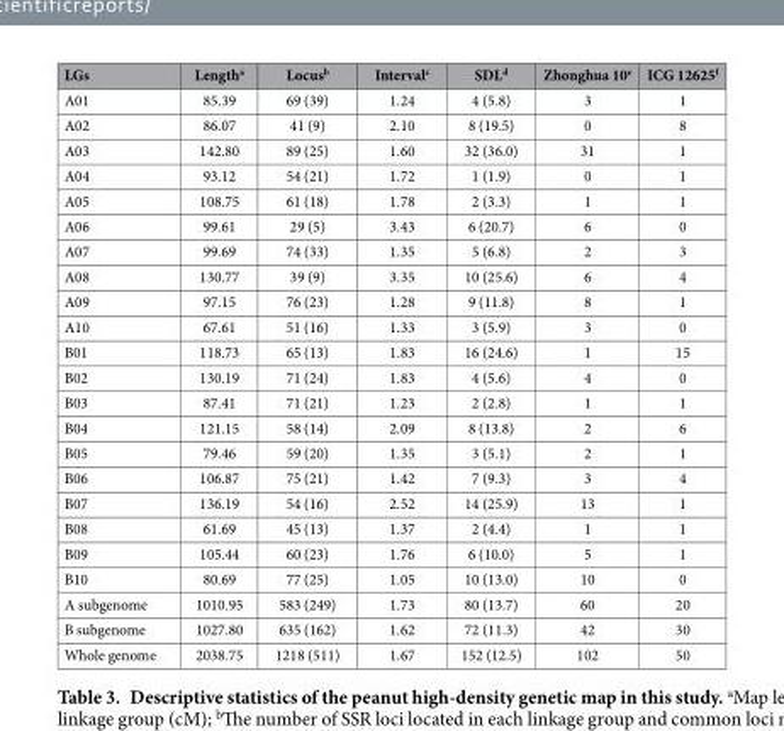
<table><thead><tr><td>LGs</td><td>Length<sup>a</sup></td><td>Locus<sup>b</sup></td><td>Interval<sup>c</sup></td><td>SDL<sup>d</sup></td><td>Zhonghua 10<sup>e</sup></td><td>ICG 12625<sup>f</sup></td></tr></thead><tbody><tr><td>A01</td><td>85.39</td><td>69 (39)</td><td>1.24</td><td>4 (5.8)</td><td>3</td><td>1</td></tr><tr><td>A02</td><td>86.07</td><td>41 (9)</td><td>2.10</td><td>8 (19.5)</td><td>0</td><td>8</td></tr><tr><td>A03</td><td>142.80</td><td>89 (25)</td><td>1.60</td><td>32 (36.0)</td><td>31</td><td>1</td></tr><tr><td>A04</td><td>93.12</td><td>54 (21)</td><td>1.72</td><td>1 (1.9)</td><td>0</td><td>1</td></tr><tr><td>A05</td><td>108.75</td><td>61 (18)</td><td>1.78</td><td>2 (3.3)</td><td>1</td><td>1</td></tr><tr><td>A06</td><td>99.61</td><td>29 (5)</td><td>3.43</td><td>6 (20.7)</td><td>6</td><td>0</td></tr><tr><td>A07</td><td>99.69</td><td>74 (33)</td><td>1.35</td><td>5 (6.8)</td><td>2</td><td>3</td></tr><tr><td>A08</td><td>130.77</td><td>39 (9)</td><td>3.35</td><td>10 (25.6)</td><td>6</td><td>4</td></tr><tr><td>A09</td><td>97.15</td><td>76 (23)</td><td>1.28</td><td>9 (11.8)</td><td>8</td><td>1</td></tr><tr><td>A10</td><td>67.61</td><td>51 (16)</td><td>1.33</td><td>3 (5.9)</td><td>3</td><td>0</td></tr><tr><td>B01</td><td>118.73</td><td>65 (13)</td><td>1.83</td><td>16 (24.6)</td><td>1</td><td>15</td></tr><tr><td>B02</td><td>130.19</td><td>71 (24)</td><td>1.83</td><td>4 (5.6)</td><td>4</td><td>0</td></tr><tr><td>B03</td><td>87.41</td><td>71 (21)</td><td>1.23</td><td>2 (2.8)</td><td>1</td><td>1</td></tr><tr><td>B04</td><td>121.15</td><td>58 (14)</td><td>2.09</td><td>8 (13.8)</td><td>2</td><td>6</td></tr><tr><td>B05</td><td>79.46</td><td>59 (20)</td><td>1.35</td><td>3 (5.1)</td><td>2</td><td>1</td></tr><tr><td>B06</td><td>106.87</td><td>75 (21)</td><td>1.42</td><td>7 (9.3)</td><td>3</td><td>4</td></tr><tr><td>B07</td><td>136.19</td><td>54 (16)</td><td>2.52</td><td>14 (25.9)</td><td>13</td><td>1</td></tr><tr><td>B08</td><td>61.69</td><td>45 (13)</td><td>1.37</td><td>2 (4.4)</td><td>1</td><td>1</td></tr><tr><td>B09</td><td>105.44</td><td>60 (23)</td><td>1.76</td><td>6 (10.0)</td><td>5</td><td>1</td></tr><tr><td>B10</td><td>80.69</td><td>77 (25)</td><td>1.05</td><td>10 (13.0)</td><td>10</td><td>0</td></tr><tr><td>A subgenome</td><td>1010.95</td><td>583 (249)</td><td>1.73</td><td>80 (13.7)</td><td>60</td><td>20</td></tr><tr><td>B subgenome</td><td>1027.80</td><td>635 (162)</td><td>1.62</td><td>72 (11.3)</td><td>42</td><td>30</td></tr><tr><td>Whole genome</td><td>2038.75</td><td>1218 (511)</td><td>1.67</td><td>152 (12.5)</td><td>102</td><td>50</td></tr></tbody></table>